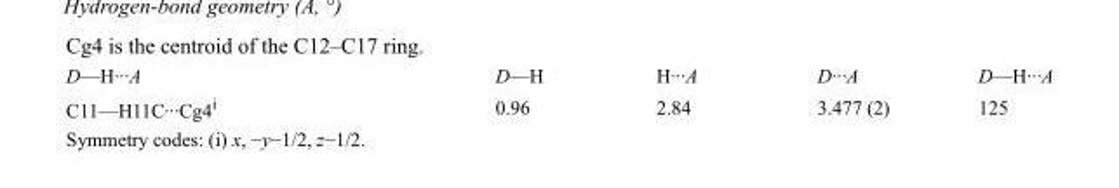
<table><tbody><tr><td>D—H···A</td><td>D—H</td><td>H···A</td><td>D···A</td><td>D—H···A</td></tr><tr><td>C11—H11C···Cg4<sup>i</sup></td><td>0.96</td><td>2.84</td><td>3.477 (2)</td><td>125</td></tr></tbody></table>